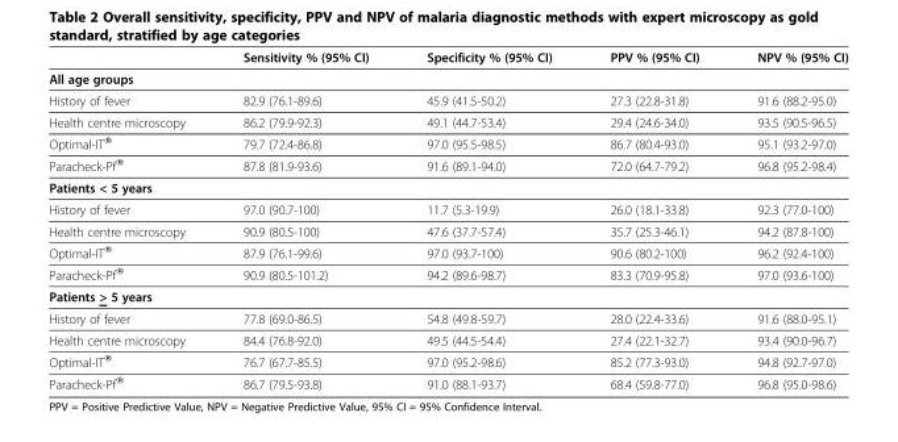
<table><thead><tr><td></td><td>Sensitivity % (95% CI)</td><td>Specificity % (95% CI)</td><td>PPV % (95% CI)</td><td>NPV % (95% CI)</td></tr></thead><tbody><tr><td colspan="5">All age groups</td></tr><tr><td>History of fever</td><td>82.9 (76.1-89.6)</td><td>45.9 (41.5-50.2)</td><td>27.3 (22.8-31.8)</td><td>91.6 (88.2-95.0)</td></tr><tr><td>Health centre microscopy</td><td>86.2 (79.9-92.3)</td><td>49.1 (44.7-53.4)</td><td>29.4 (24.6-34.0)</td><td>93.5 (90.5-96.5)</td></tr><tr><td>Optimal-IT®</td><td>79.7 (72.4-86.8)</td><td>97.0 (95.5-98.5)</td><td>86.7 (80.4-93.0)</td><td>95.1 (93.2-97.0)</td></tr><tr><td>Paracheck-Pf®</td><td>87.8 (81.9-93.6)</td><td>91.6 (89.1-94.0)</td><td>72.0 (64.7-79.2)</td><td>96.8 (95.2-98.4)</td></tr><tr><td colspan="5">Patients &lt; 5 years</td></tr><tr><td>History of fever</td><td>97.0 (90.7-100)</td><td>11.7 (5.3-19.9)</td><td>26.0 (18.1-33.8)</td><td>92.3 (77.0-100)</td></tr><tr><td>Health centre microscopy</td><td>90.9 (80.5-100)</td><td>47.6 (37.7-57.4)</td><td>35.7 (25.3-46.1)</td><td>94.2 (87.8-100)</td></tr><tr><td>Optimal-IT®</td><td>87.9 (76.1-99.6)</td><td>97.0 (93.7-100)</td><td>90.6 (80.2-100)</td><td>96.2 (92.4-100)</td></tr><tr><td>Paracheck-Pf®</td><td>90.9 (80.5-101.2)</td><td>94.2 (89.6-98.7)</td><td>83.3 (70.9-95.8)</td><td>97.0 (93.6-100)</td></tr><tr><td colspan="5">Patients &gt; 5 years</td></tr><tr><td>History of fever</td><td>77.8 (69.0-86.5)</td><td>54.8 (49.8-59.7)</td><td>28.0 (22.4-33.6)</td><td>91.6 (88.0-95.1)</td></tr><tr><td>Health centre microscopy</td><td>84.4 (76.8-92.0)</td><td>49.5 (44.5-54.4)</td><td>27.4 (22.1-32.7)</td><td>93.4 (90.0-96.7)</td></tr><tr><td>Optimal-IT®</td><td>76.7 (67.7-85.5)</td><td>97.0 (95.2-98.6)</td><td>85.2 (77.3-93.0)</td><td>94.8 (92.7-97.0)</td></tr><tr><td>Paracheck-Pf®</td><td>86.7 (79.5-93.8)</td><td>91.0 (88.1-93.7)</td><td>68.4 (59.8-77.0)</td><td>96.8 (95.0-98.6)</td></tr></tbody></table>